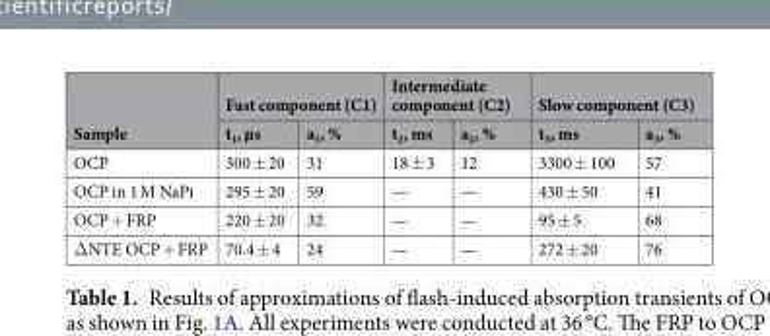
<table><thead><tr><td rowspan="2">Sample</td><td colspan="2">Fast component (C1)</td><td colspan="2">Intermediate component (C2)</td><td colspan="2">Slow component (C3)</td></tr><tr><td>t<sub>1</sub>, µs</td><td>a<sub>1</sub>, %</td><td>t<sub>2</sub>, ms</td><td>a<sub>2</sub>, %</td><td>t<sub>3</sub>, ms</td><td>a<sub>3</sub>, %</td></tr></thead><tbody><tr><td>OCP</td><td>300 ± 20</td><td>31</td><td>18 ± 3</td><td>12</td><td>3300 ± 100</td><td>57</td></tr><tr><td>OCP in 1 M NaPi</td><td>295 ± 20</td><td>59</td><td>—</td><td>—</td><td>430 ± 50</td><td>41</td></tr><tr><td>OCP + FRP</td><td>220 ± 20</td><td>32</td><td>—</td><td>—</td><td>95 ± 5</td><td>68</td></tr><tr><td>ΔNTE OCP + FRP</td><td>70.4 ± 4</td><td>24</td><td>—</td><td>—</td><td>272 ± 20</td><td>76</td></tr></tbody></table>